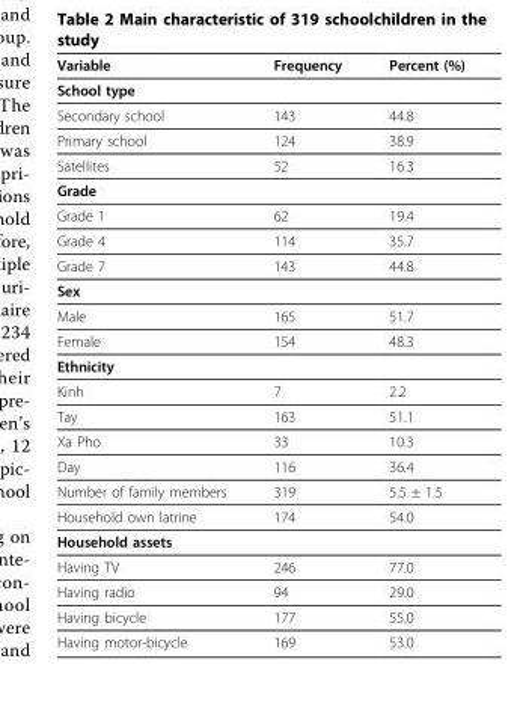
<table><thead><tr><td>Variable</td><td>Frequency</td><td>Percent (%)</td></tr></thead><tbody><tr><td colspan="3">School type</td></tr><tr><td>Secondary school</td><td>143</td><td>44.8</td></tr><tr><td>Primary school</td><td>124</td><td>38.9</td></tr><tr><td>Satellites</td><td>52</td><td>16.3</td></tr><tr><td colspan="3">Grade</td></tr><tr><td>Grade 1</td><td>62</td><td>19.4</td></tr><tr><td>Grade 4</td><td>114</td><td>35.7</td></tr><tr><td>Grade 7</td><td>143</td><td>44.8</td></tr><tr><td colspan="3">Sex</td></tr><tr><td>Male</td><td>165</td><td>51.7</td></tr><tr><td>Female</td><td>154</td><td>48.3</td></tr><tr><td colspan="3">Ethnicity</td></tr><tr><td>Kinh</td><td>7</td><td>2.2</td></tr><tr><td>Tay</td><td>163</td><td>51.1</td></tr><tr><td>Xa Pho</td><td>33</td><td>10.3</td></tr><tr><td>Day</td><td>116</td><td>36.4</td></tr><tr><td>Number of family members</td><td>319</td><td>5.5 ± 1.5</td></tr><tr><td>Household own latrine</td><td>174</td><td>54.0</td></tr><tr><td colspan="3">Household assets</td></tr><tr><td>Having TV</td><td>246</td><td>77.0</td></tr><tr><td>Having radio</td><td>94</td><td>29.0</td></tr><tr><td>Having bicycle</td><td>177</td><td>55.0</td></tr><tr><td>Having motor-bicycle</td><td>169</td><td>53.0</td></tr></tbody></table>